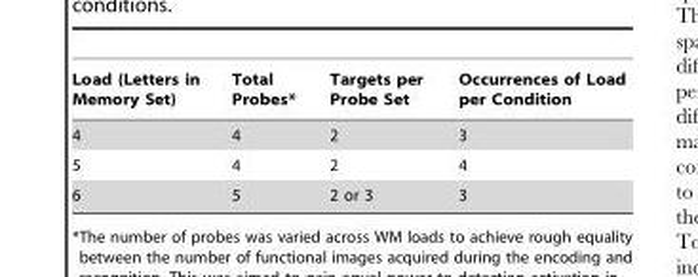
<table><thead><tr><td>Load (Letters in Memory Set)</td><td>Total Probes*</td><td>Targets per Probe Set</td><td>Occurrences of Load per Condition</td></tr></thead><tbody><tr><td>4</td><td>4</td><td>2</td><td>3</td></tr><tr><td>5</td><td>4</td><td>2</td><td>4</td></tr><tr><td>6</td><td>5</td><td>2 or 3</td><td>3</td></tr></tbody></table>